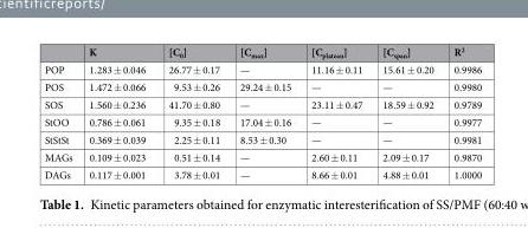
<table><thead><tr><td></td><td>K</td><td>[C<sub>0</sub>]</td><td>[C<sub>max</sub>]</td><td>[C<sub>plateau</sub>]</td><td>[C<sub>span</sub>]</td><td>R<sup>2</sup></td></tr></thead><tbody><tr><td>POP</td><td>1.283 ± 0.046</td><td>26.77 ± 0.17</td><td>—</td><td>11.16 ± 0.11</td><td>15.61 ± 0.20</td><td>0.9986</td></tr><tr><td>POS</td><td>1.472 ± 0.066</td><td>9.53 ± 0.26</td><td>29.24 ± 0.15</td><td>—</td><td>—</td><td>0.9980</td></tr><tr><td>SOS</td><td>1.560 ± 0.236</td><td>41.70 ± 0.80</td><td>—</td><td>23.11 ± 0.47</td><td>18.59 ± 0.92</td><td>0.9789</td></tr><tr><td>StOO</td><td>0.786 ± 0.061</td><td>9.35 ± 0.18</td><td>17.04 ± 0.16</td><td>—</td><td>—</td><td>0.9977</td></tr><tr><td>StStSt</td><td>0.369 ± 0.039</td><td>2.25 ± 0.11</td><td>8.53 ± 0.30</td><td>—</td><td>—</td><td>0.9981</td></tr><tr><td>MAGs</td><td>0.109 ± 0.023</td><td>0.51 ± 0.14</td><td>—</td><td>2.60 ± 0.11</td><td>2.09 ± 0.17</td><td>0.9870</td></tr><tr><td>DAGs</td><td>0.117 ± 0.001</td><td>3.78 ± 0.01</td><td>—</td><td>8.66 ± 0.01</td><td>4.88 ± 0.01</td><td>1.0000</td></tr></tbody></table>